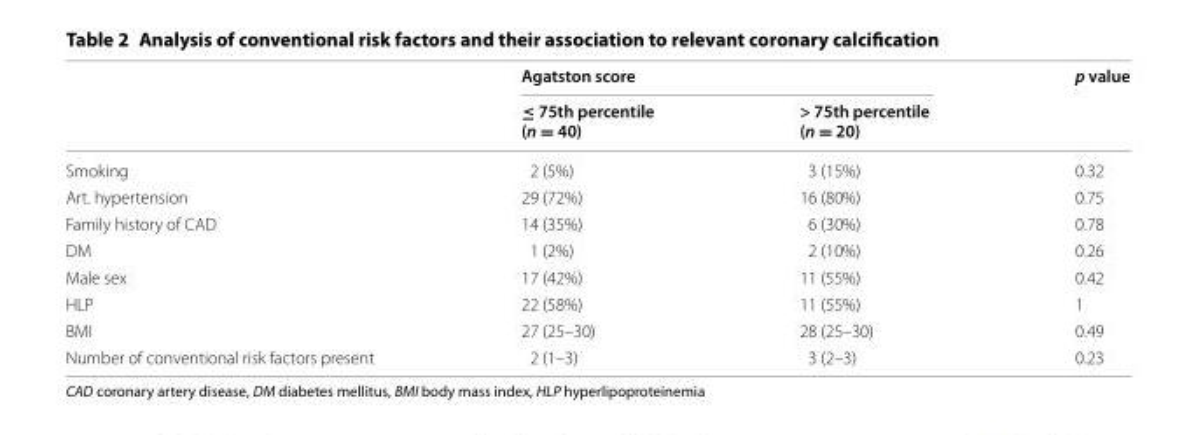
<table><thead><tr><td rowspan="2"></td><td colspan="2">Agatston score</td><td rowspan="2">p value</td></tr><tr><td>≤ 75th percentile (n = 40)</td><td>&gt; 75th percentile (n = 20)</td></tr></thead><tbody><tr><td>Smoking</td><td>2 (5%)</td><td>3 (15%)</td><td>0.32</td></tr><tr><td>Art. hypertension</td><td>29 (72%)</td><td>16 (80%)</td><td>0.75</td></tr><tr><td>Family history of CAD</td><td>14 (35%)</td><td>6 (30%)</td><td>0.78</td></tr><tr><td>DM</td><td>1 (2%)</td><td>2 (10%)</td><td>0.26</td></tr><tr><td>Male sex</td><td>17 (42%)</td><td>11 (55%)</td><td>0.42</td></tr><tr><td>HLP</td><td>22 (58%)</td><td>11 (55%)</td><td>1</td></tr><tr><td>BMI</td><td>27 (25–30)</td><td>28 (25–30)</td><td>0.49</td></tr><tr><td>Number of conventional risk factors present</td><td>2 (1–3)</td><td>3 (2–3)</td><td>0.23</td></tr></tbody></table>